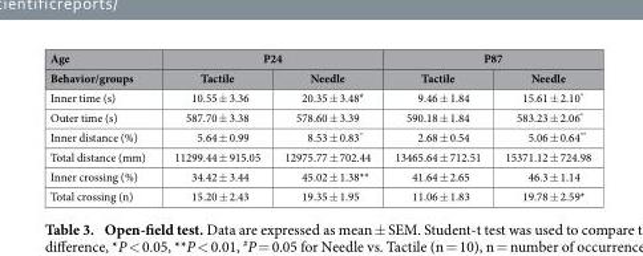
<table><thead><tr><td rowspan="2">Age Behavior/groups</td><td colspan="2">P24</td><td colspan="2">P87</td></tr><tr><td>Tactile</td><td>Needle</td><td>Tactile</td><td>Needle</td></tr></thead><tbody><tr><td>Inner time (s)</td><td>10.55 ± 3.36</td><td>20.35 ± 3.48<sup>#</sup></td><td>9.46 ± 1.84</td><td>15.61 ± 2.10*</td></tr><tr><td>Outer time (s)</td><td>587.70 ± 3.38</td><td>578.60 ± 3.39</td><td>590.18 ± 1.84</td><td>583.23 ± 2.06*</td></tr><tr><td>Inner distance (%)</td><td>5.64 ± 0.99</td><td>8.53 ± 0.83*</td><td>2.68 ± 0.54</td><td>5.06 ± 0.64**</td></tr><tr><td>Total distance (mm)</td><td>11299.44 ± 915.05</td><td>12975.77 ± 702.44</td><td>13465.64 ± 712.51</td><td>15371.12 ± 724.98</td></tr><tr><td>Inner crossing (%)</td><td>34.42 ± 3.44</td><td>45.02 ± 1.38**</td><td>41.64 ± 2.65</td><td>46.3 ± 1.14</td></tr><tr><td>Total crossing (n)</td><td>15.20 ± 2.43</td><td>19.35 ± 1.95</td><td>11.06 ± 1.83</td><td>19.78 ± 2.59*</td></tr></tbody></table>